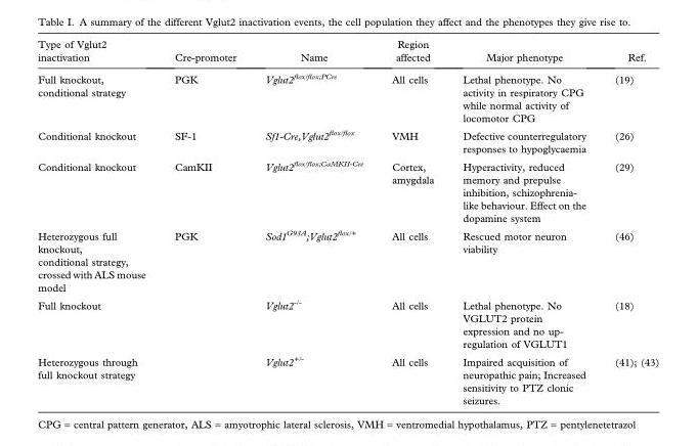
<table><thead><tr><td>Type of Vglut2 inactivation</td><td>Cre-promoter</td><td>Name</td><td>Region affected</td><td>Major phenotype</td><td>Ref.</td></tr></thead><tbody><tr><td>Full knockout, conditional strategy</td><td>PGK</td><td>Vglut2<sup>flox/flox;PCre</sup></td><td>All cells</td><td>Lethal phenotype. No activity in respiratory CPG while normal activity of locomotor CPG</td><td>(19)</td></tr><tr><td>Conditional knockout</td><td>SF-1</td><td>Sf1-Cre,Vglut2<sup>flox/flox</sup></td><td>VMH</td><td>Defective counterregulatory responses to hypoglycaemia</td><td>(26)</td></tr><tr><td>Conditional knockout</td><td>CamKII</td><td>Vglut2<sup>flox/flox;CaMKII-Cre</sup></td><td>Cortex, amygdala</td><td>Hyperactivity, reduced memory and prepulse inhibition, schizophrenia- like behaviour. Effect on the dopamine system</td><td>(29)</td></tr><tr><td>Heterozygous full knockout, conditional strategy, crossed with ALS mouse model</td><td>PGK</td><td>Sod1<sup>G93A</sup>;Vglut2<sup>flox/+</sup></td><td>All cells</td><td>Rescued motor neuron viability</td><td>(46)</td></tr><tr><td>Full knockout</td><td></td><td>Vglut2<sup>-/-</sup></td><td>All cells</td><td>Lethal phenotype. No VGLUT2 protein expression and no up- regulation of VGLUT1</td><td>(18)</td></tr><tr><td>Heterozygous through full knockout strategy</td><td></td><td>Vglut2<sup>+/-</sup></td><td>All cells</td><td>Impaired acquisition of neuropathic pain; Increased sensitivity to PTZ clonic seizures.</td><td>(41); (43)</td></tr></tbody></table>